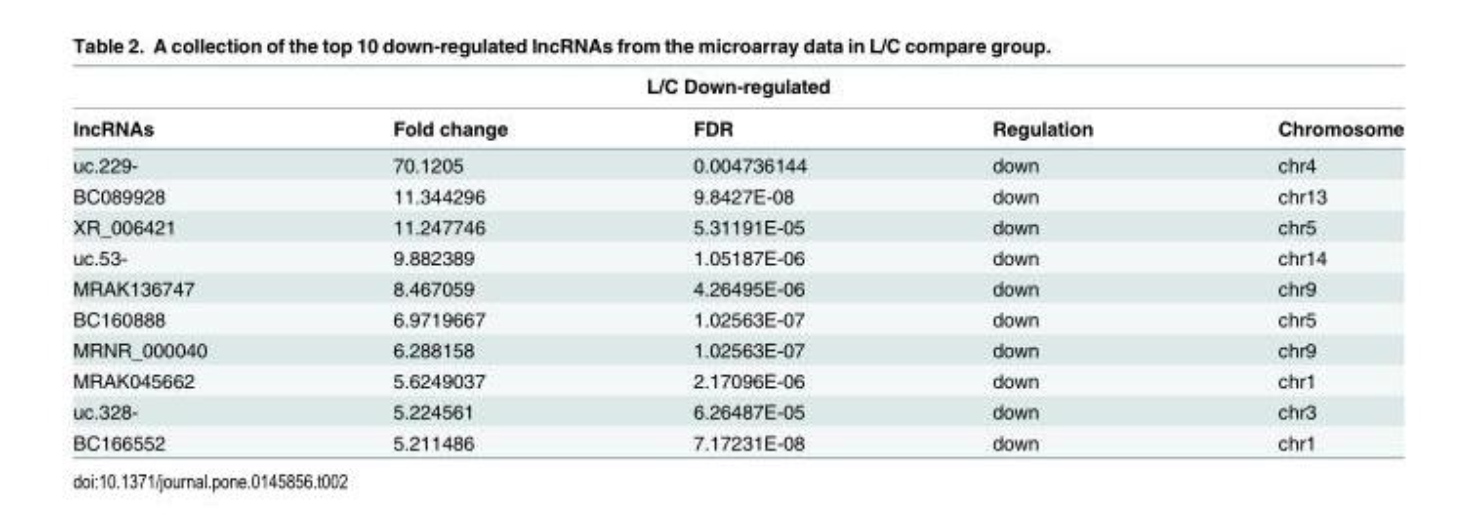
<table><thead><tr><td colspan="5">L/C Down-regulated</td></tr><tr><td>lncRNAs</td><td>Fold change</td><td>FDR</td><td>Regulation</td><td>Chromosome</td></tr></thead><tbody><tr><td>uc.229-</td><td>70.1205</td><td>0.004736144</td><td>down</td><td>chr4</td></tr><tr><td>BC089928</td><td>11.344296</td><td>9.8427E-08</td><td>down</td><td>chr13</td></tr><tr><td>XR_006421</td><td>11.247746</td><td>5.31191E-05</td><td>down</td><td>chr5</td></tr><tr><td>uc.53-</td><td>9.882389</td><td>1.05187E-06</td><td>down</td><td>chr14</td></tr><tr><td>MRAK136747</td><td>8.467059</td><td>4.26495E-06</td><td>down</td><td>chr9</td></tr><tr><td>BC160888</td><td>6.9719667</td><td>1.02563E-07</td><td>down</td><td>chr5</td></tr><tr><td>MRNR_000040</td><td>6.288158</td><td>1.02563E-07</td><td>down</td><td>chr9</td></tr><tr><td>MRAK045662</td><td>5.6249037</td><td>2.17096E-06</td><td>down</td><td>chr1</td></tr><tr><td>uc.328-</td><td>5.224561</td><td>6.26487E-05</td><td>down</td><td>chr3</td></tr><tr><td>BC166552</td><td>5.211486</td><td>7.17231E-08</td><td>down</td><td>chr1</td></tr></tbody></table>